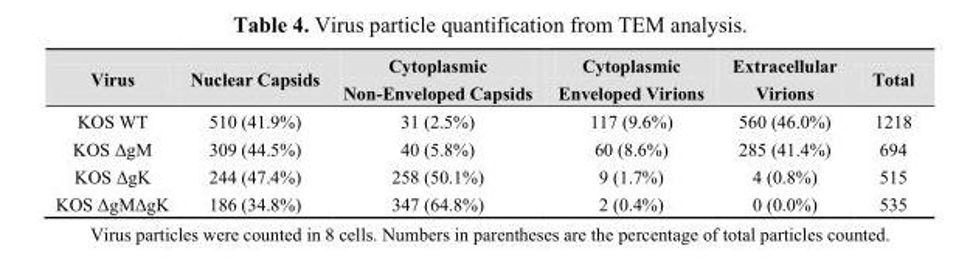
<table><thead><tr><td>Virus</td><td>Nuclear Capsids</td><td>Cytoplasmic Non-Enveloped Capsids</td><td>Cytoplasmic Enveloped Virions</td><td>Extracellular Virions</td><td>Total</td></tr></thead><tbody><tr><td>KOS WT</td><td>510 (41.9%)</td><td>31 (2.5%)</td><td>117 (9.6%)</td><td>560 (46.0%)</td><td>1218</td></tr><tr><td>KOS ΔgM</td><td>309 (44.5%)</td><td>40 (5.8%)</td><td>60 (8.6%)</td><td>285 (41.4%)</td><td>694</td></tr><tr><td>KOS ΔgK</td><td>244 (47.4%)</td><td>258 (50.1%)</td><td>9 (1.7%)</td><td>4 (0.8%)</td><td>515</td></tr><tr><td>KOS ΔgMΔgK</td><td>186 (34.8%)</td><td>347 (64.8%)</td><td>2 (0.4%)</td><td>0 (0.0%)</td><td>535</td></tr></tbody></table>